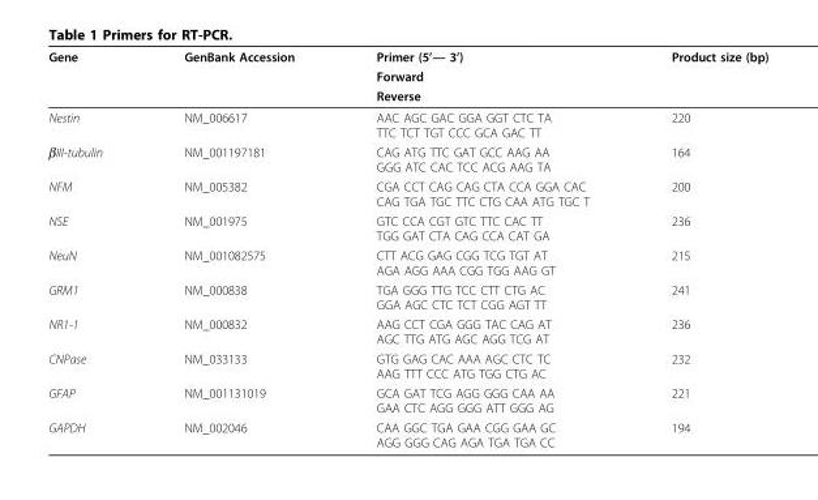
<table><thead><tr><td rowspan="3">Gene</td><td rowspan="3">GenBank Accession</td><td rowspan="3">Primer (5’— 3’) Forward Reverse</td><td rowspan="3">Product size (bp)</td></tr><tr></tr><tr></tr></thead><tbody><tr><td>Nestin</td><td>NM_006617</td><td>AAC AGC GAC GGA GGT CTC TA TTC TCT TGT CCC GCA GAC TT</td><td>220</td></tr><tr><td>βIII-tubulin</td><td>NM_001197181</td><td>CAG ATG TTC GAT GCC AAG AA GGG ATC CAC TCC ACG AAG TA</td><td>164</td></tr><tr><td>NFM</td><td>NM_005382</td><td>CGA CCT CAG CAG CTA CCA GGA CAC CAG TGA TGC TTC CTG CAA ATG TGC T</td><td>200</td></tr><tr><td>NSE</td><td>NM_001975</td><td>GTC CCA CGT GTC TTC CAC TT TGG GAT CTA CAG CCA CAT GA</td><td>236</td></tr><tr><td>NeuN</td><td>NM_001082575</td><td>CTT ACG GAG CGG TCG TGT AT AGA AGG AAA CGG TGG AAG GT</td><td>215</td></tr><tr><td>GRM1</td><td>NM_000838</td><td>TGA GGG TTG TCC CTT CTG AC GGA AGC CTC TCT CGG AGT TT</td><td>241</td></tr><tr><td>NR1-1</td><td>NM_000832</td><td>AAG CCT CGA GGG TAC CAG AT AGC TTG ATG AGC AGG TCG AT</td><td>236</td></tr><tr><td>CNPase</td><td>NM_033133</td><td>GTG GAG CAC AAA AGC CTC TC AAG TTT CCC ATG TGG CTG AC</td><td>232</td></tr><tr><td>GFAP</td><td>NM_001131019</td><td>GCA GAT TCG AGG GGG CAA AA GAA CTC AGG GGG ATT GGG AG</td><td>221</td></tr><tr><td>GAPDH</td><td>NM_002046</td><td>CAA GGC TGA GAA CGG GAA GC AGG GGG CAG AGA TGA TGA CC</td><td>194</td></tr></tbody></table>